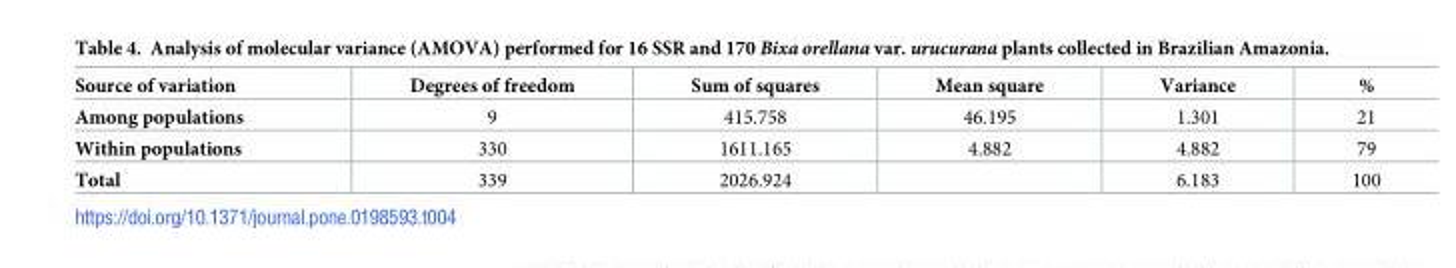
<table><thead><tr><td>Source of variation</td><td>Degrees of freedom</td><td>Sum of squares</td><td>Mean square</td><td>Variance</td><td>%</td></tr></thead><tbody><tr><td>Among populations</td><td>9</td><td>415.758</td><td>46.195</td><td>1.301</td><td>21</td></tr><tr><td>Within populations</td><td>330</td><td>1611.165</td><td>4.882</td><td>4.882</td><td>79</td></tr><tr><td>Total</td><td>339</td><td>2026.924</td><td></td><td>6.183</td><td>100</td></tr></tbody></table>